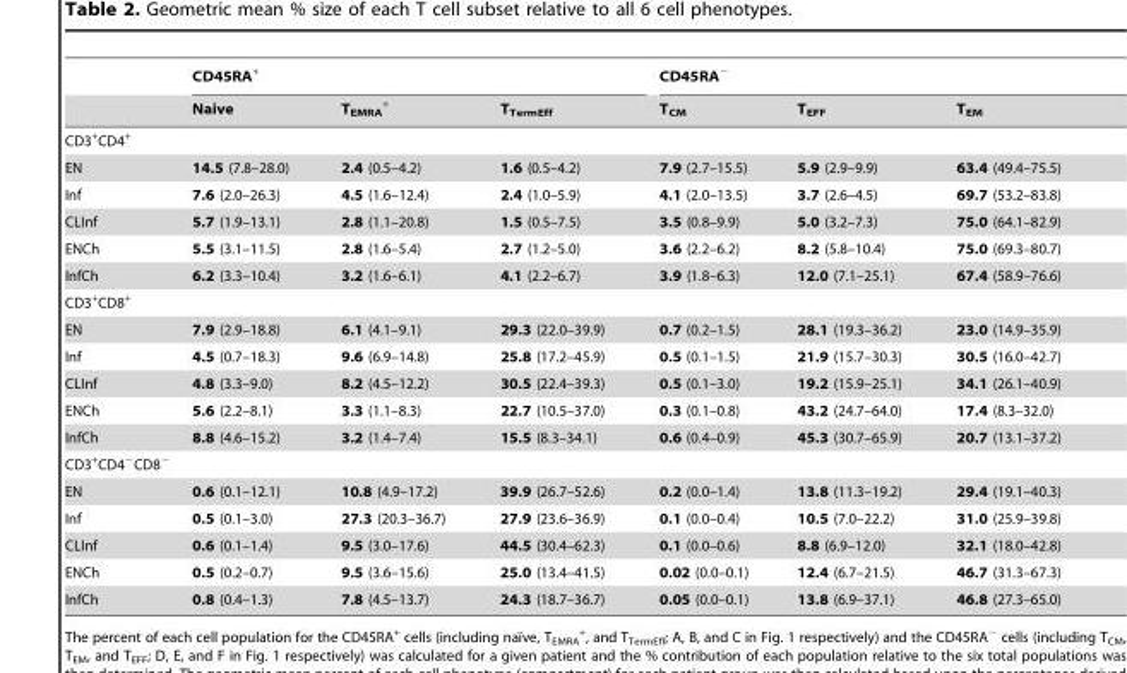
<table><thead><tr><td rowspan="2"></td><td colspan="3">CD45RA<sup>+</sup></td><td colspan="3">CD45RA<sup>−</sup></td></tr><tr><td>Naive</td><td>T<sub>EMRA</sub> <sup>+</sup></td><td>T<sub>TermEff</sub></td><td>T<sub>CM</sub></td><td>T<sub>EFF</sub></td><td>T<sub>EM</sub></td></tr></thead><tbody><tr><td colspan="7">CD3<sup>+</sup>CD4<sup>+</sup></td></tr><tr><td>EN</td><td>14.5 (7.8–28.0)</td><td>2.4 (0.5–4.2)</td><td>1.6 (0.5–4.2)</td><td>7.9 (2.7–15.5)</td><td>5.9 (2.9–9.9)</td><td>63.4 (49.4–75.5)</td></tr><tr><td>Inf</td><td>7.6 (2.0–26.3)</td><td>4.5 (1.6–12.4)</td><td>2.4 (1.0–5.9)</td><td>4.1 (2.0–13.5)</td><td>3.7 (2.6–4.5)</td><td>69.7 (53.2–83.8)</td></tr><tr><td>CLInf</td><td>5.7 (1.9–13.1)</td><td>2.8 (1.1–20.8)</td><td>1.5 (0.5–7.5)</td><td>3.5 (0.8–9.9)</td><td>5.0 (3.2–7.3)</td><td>75.0 (64.1–82.9)</td></tr><tr><td>ENCh</td><td>5.5 (3.1–11.5)</td><td>2.8 (1.6–5.4)</td><td>2.7 (1.2–5.0)</td><td>3.6 (2.2–6.2)</td><td>8.2 (5.8–10.4)</td><td>75.0 (69.3–80.7)</td></tr><tr><td>InfCh</td><td>6.2 (3.3–10.4)</td><td>3.2 (1.6–6.1)</td><td>4.1 (2.2–6.7)</td><td>3.9 (1.8–6.3)</td><td>12.0 (7.1–25.1)</td><td>67.4 (58.9–76.6)</td></tr><tr><td colspan="7">CD3<sup>+</sup>CD8<sup>+</sup></td></tr><tr><td>EN</td><td>7.9 (2.9–18.8)</td><td>6.1 (4.1–9.1)</td><td>29.3 (22.0–39.9)</td><td>0.7 (0.2–1.5)</td><td>28.1 (19.3–36.2)</td><td>23.0 (14.9–35.9)</td></tr><tr><td>Inf</td><td>4.5 (0.7–18.3)</td><td>9.6 (6.9–14.8)</td><td>25.8 (17.2–45.9)</td><td>0.5 (0.1–1.5)</td><td>21.9 (15.7–30.3)</td><td>30.5 (16.0–42.7)</td></tr><tr><td>CLInf</td><td>4.8 (3.3–9.0)</td><td>8.2 (4.5–12.2)</td><td>30.5 (22.4–39.3)</td><td>0.5 (0.1–3.0)</td><td>19.2 (15.9–25.1)</td><td>34.1 (26.1–40.9)</td></tr><tr><td>ENCh</td><td>5.6 (2.2–8.1)</td><td>3.3 (1.1–8.3)</td><td>22.7 (10.5–37.0)</td><td>0.3 (0.1–0.8)</td><td>43.2 (24.7–64.0)</td><td>17.4 (8.3–32.0)</td></tr><tr><td>InfCh</td><td>8.8 (4.6–15.2)</td><td>3.2 (1.4–7.4)</td><td>15.5 (8.3–34.1)</td><td>0.6 (0.4–0.9)</td><td>45.3 (30.7–65.9)</td><td>20.7 (13.1–37.2)</td></tr><tr><td colspan="7">CD3<sup>+</sup>CD4<sup>−</sup>CD8<sup>−</sup></td></tr><tr><td>EN</td><td>0.6 (0.1–12.1)</td><td>10.8 (4.9–17.2)</td><td>39.9 (26.7–52.6)</td><td>0.2 (0.0–1.4)</td><td>13.8 (11.3–19.2)</td><td>29.4 (19.1–40.3)</td></tr><tr><td>Inf</td><td>0.5 (0.1–3.0)</td><td>27.3 (20.3–36.7)</td><td>27.9 (23.6–36.9)</td><td>0.1 (0.0–0.4)</td><td>10.5 (7.0–22.2)</td><td>31.0 (25.9–39.8)</td></tr><tr><td>CLInf</td><td>0.6 (0.1–1.4)</td><td>9.5 (3.0–17.6)</td><td>44.5 (30.4–62.3)</td><td>0.1 (0.0–0.6)</td><td>8.8 (6.9–12.0)</td><td>32.1 (18.0–42.8)</td></tr><tr><td>ENCh</td><td>0.5 (0.2–0.7)</td><td>9.5 (3.6–15.6)</td><td>25.0 (13.4–41.5)</td><td>0.02 (0.0–0.1)</td><td>12.4 (6.7–21.5)</td><td>46.7 (31.3–67.3)</td></tr><tr><td>InfCh</td><td>0.8 (0.4–1.3)</td><td>7.8 (4.5–13.7)</td><td>24.3 (18.7–36.7)</td><td>0.05 (0.0–0.1)</td><td>13.8 (6.9–37.1)</td><td>46.8 (27.3–65.0)</td></tr></tbody></table>